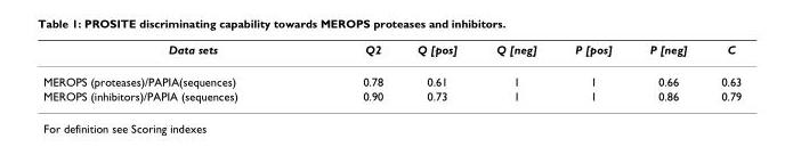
<table><thead><tr><td>Data sets</td><td>Q2</td><td>Q [pos]</td><td>Q [neg]</td><td>P [pos]</td><td>P [neg]</td><td>C</td></tr></thead><tbody><tr><td>MEROPS (proteases)/PAPIA(sequences)</td><td>0.78</td><td>0.61</td><td>1</td><td>1</td><td>0.66</td><td>0.63</td></tr><tr><td>MEROPS (inhibitors)/PAPIA (sequences)</td><td>0.90</td><td>0.73</td><td>1</td><td>1</td><td>0.86</td><td>0.79</td></tr></tbody></table>